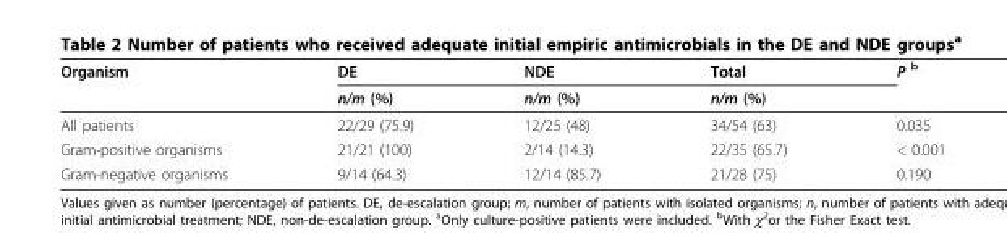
<table><thead><tr><td rowspan="2">Organism</td><td rowspan="2">DE n/m (%)</td><td rowspan="2">NDE n/m (%)</td><td rowspan="2">Total n/m (%)</td><td rowspan="2">P <sup>b</sup></td></tr><tr></tr></thead><tbody><tr><td>All patients</td><td>22/29 (75.9)</td><td>12/25 (48)</td><td>34/54 (63)</td><td>0.035</td></tr><tr><td>Gram-positive organisms</td><td>21/21 (100)</td><td>2/14 (14.3)</td><td>22/35 (65.7)</td><td>&lt; 0.001</td></tr><tr><td>Gram-negative organisms</td><td>9/14 (64.3)</td><td>12/14 (85.7)</td><td>21/28 (75)</td><td>0.190</td></tr></tbody></table>